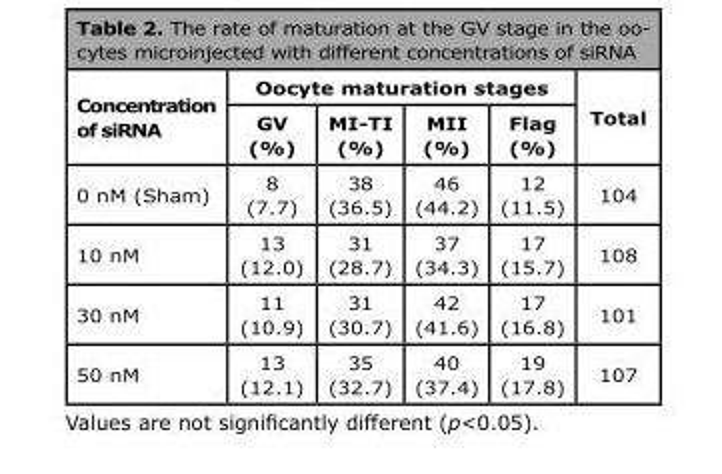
<table><thead><tr><td rowspan="2">Concentration of siRNA</td><td colspan="4">Oocyte maturation stages</td><td rowspan="2">Total</td></tr><tr><td>GV (%)</td><td>MI-TI (%)</td><td>MII (%)</td><td>Flag (%)</td></tr></thead><tbody><tr><td>0 nM (Sham)</td><td>8 (7.7)</td><td>38 (36.5)</td><td>46 (44.2)</td><td>12 (11.5)</td><td>104</td></tr><tr><td>10 nM</td><td>13 (12.0)</td><td>31 (28.7)</td><td>37 (34.3)</td><td>17 (15.7)</td><td>108</td></tr><tr><td>30 nM</td><td>11 (10.9)</td><td>31 (30.7)</td><td>42 (41.6)</td><td>17 (16.8)</td><td>101</td></tr><tr><td>50 nM</td><td>13 (12.1)</td><td>35 (32.7)</td><td>40 (37.4)</td><td>19 (17.8)</td><td>107</td></tr></tbody></table>